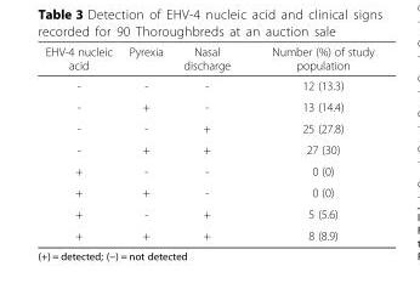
<table><thead><tr><td>EHV-4 nucleic acid</td><td>Pyrexia</td><td>Nasal discharge</td><td>Number (%) of study population</td></tr></thead><tbody><tr><td>-</td><td>-</td><td>-</td><td>12 (13.3)</td></tr><tr><td>-</td><td>+</td><td>-</td><td>13 (14.4)</td></tr><tr><td>-</td><td>-</td><td>+</td><td>25 (27.8)</td></tr><tr><td>-</td><td>+</td><td>+</td><td>27 (30)</td></tr><tr><td>+</td><td>-</td><td>-</td><td>0 (0)</td></tr><tr><td>+</td><td>+</td><td>-</td><td>0 (0)</td></tr><tr><td>+</td><td>-</td><td>+</td><td>5 (5.6)</td></tr><tr><td>+</td><td>+</td><td>+</td><td>8 (8.9)</td></tr></tbody></table>